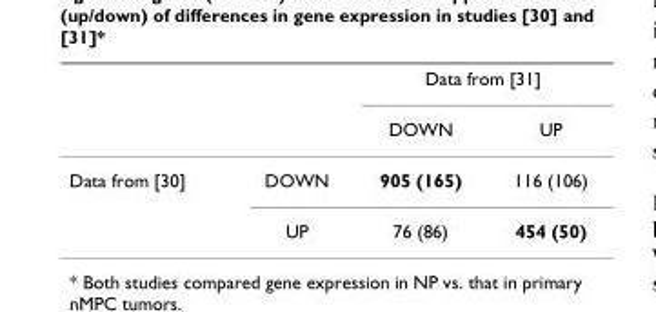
<table><thead><tr><td rowspan="2"></td><td rowspan="2"></td><td colspan="2">Data from [31]</td></tr><tr><td>DOWN</td><td>UP</td></tr></thead><tbody><tr><td rowspan="2">Data from [30]</td><td>DOWN</td><td>905 (165)</td><td>116 (106)</td></tr><tr><td>UP</td><td>76 (86)</td><td>454 (50)</td></tr></tbody></table>